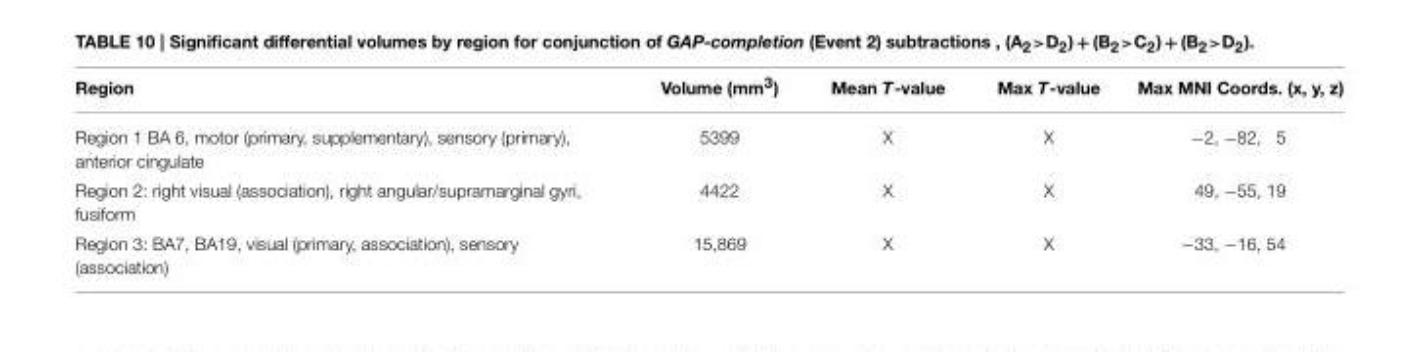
<table><thead><tr><td>Region</td><td>Volume (mm<sup>3</sup>)</td><td>Mean T-value</td><td>Max T-value</td><td>Max MNI Coords. (x, y, z)</td></tr></thead><tbody><tr><td>Region 1 BA 6, motor (primary, supplementary), sensory (primary), anterior cingulate</td><td>5399</td><td>X</td><td>X</td><td>−2, −82, 5</td></tr><tr><td>Region 2: right visual (association), right angular/supramarginal gyri, fusiform</td><td>4422</td><td>X</td><td>X</td><td>49, −55, 19</td></tr><tr><td>Region 3: BA7, BA19, visual (primary, association), sensory (association)</td><td>15,869</td><td>X</td><td>X</td><td>−33, −16, 54</td></tr></tbody></table>